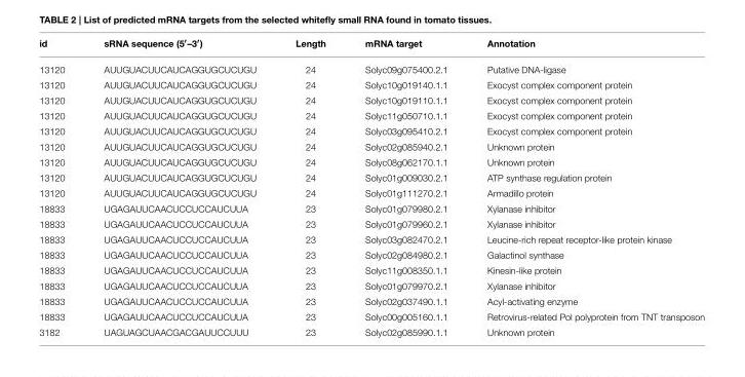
<table><thead><tr><td>id</td><td>sRNA sequence (5′–3′)</td><td>Length</td><td>mRNA target</td><td>Annotation</td></tr></thead><tbody><tr><td>13120</td><td>AUUGUACUUCAUCAGGUGCUCUGU</td><td>24</td><td>Solyc09g075400.2.1</td><td>Putative DNA-ligase</td></tr><tr><td>13120</td><td>AUUGUACUUCAUCAGGUGCUCUGU</td><td>24</td><td>Solyc10g019140.1.1</td><td>Exocyst complex component protein</td></tr><tr><td>13120</td><td>AUUGUACUUCAUCAGGUGCUCUGU</td><td>24</td><td>Solyc10g019110.1.1</td><td>Exocyst complex component protein</td></tr><tr><td>13120</td><td>AUUGUACUUCAUCAGGUGCUCUGU</td><td>24</td><td>Solyc11g050710.1.1</td><td>Exocyst complex component protein</td></tr><tr><td>13120</td><td>AUUGUACUUCAUCAGGUGCUCUGU</td><td>24</td><td>Solyc03g095410.2.1</td><td>Exocyst complex component protein</td></tr><tr><td>13120</td><td>AUUGUACUUCAUCAGGUGCUCUGU</td><td>24</td><td>Solyc02g085940.2.1</td><td>Unknown protein</td></tr><tr><td>13120</td><td>AUUGUACUUCAUCAGGUGCUCUGU</td><td>24</td><td>Solyc08g062170.1.1</td><td>Unknown protein</td></tr><tr><td>13120</td><td>AUUGUACUUCAUCAGGUGCUCUGU</td><td>24</td><td>Solyc01g009030.2.1</td><td>ATP synthase regulation protein</td></tr><tr><td>13120</td><td>AUUGUACUUCAUCAGGUGCUCUGU</td><td>24</td><td>Solyc01g111270.2.1</td><td>Armadillo protein</td></tr><tr><td>18833</td><td>UGAGAUUCAACUCCUCCAUCUUA</td><td>23</td><td>Solyc01g079980.2.1</td><td>Xylanase inhibitor</td></tr><tr><td>18833</td><td>UGAGAUUCAACUCCUCCAUCUUA</td><td>23</td><td>Solyc01g079960.2.1</td><td>Xylanase inhibitor</td></tr><tr><td>18833</td><td>UGAGAUUCAACUCCUCCAUCUUA</td><td>23</td><td>Solyc03g082470.2.1</td><td>Leucine-rich repeat receptor-like protein kinase</td></tr><tr><td>18833</td><td>UGAGAUUCAACUCCUCCAUCUUA</td><td>23</td><td>Solyc02g084980.2.1</td><td>Galactinol synthase</td></tr><tr><td>18833</td><td>UGAGAUUCAACUCCUCCAUCUUA</td><td>23</td><td>Solyc11g008350.1.1</td><td>Kinesin-like protein</td></tr><tr><td>18833</td><td>UGAGAUUCAACUCCUCCAUCUUA</td><td>23</td><td>Solyc01g079970.2.1</td><td>Xylanase inhibitor</td></tr><tr><td>18833</td><td>UGAGAUUCAACUCCUCCAUCUUA</td><td>23</td><td>Solyc02g037490.1.1</td><td>Acyl-activating enzyme</td></tr><tr><td>18833</td><td>UGAGAUUCAACUCCUCCAUCUUA</td><td>23</td><td>Solyc00g005160.1.1</td><td>Retrovirus-related Pol polyprotein from TNT transposon</td></tr><tr><td>3182</td><td>UAGUAGCUAACGACGAUUCCUUU</td><td>23</td><td>Solyc02g085990.1.1</td><td>Unknown protein</td></tr></tbody></table>